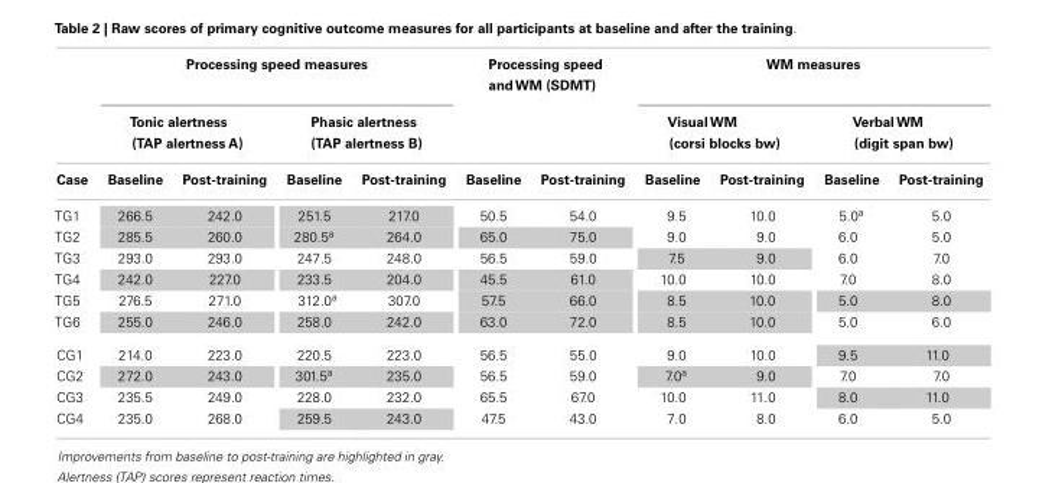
<table><thead><tr><td rowspan="3">Case</td><td colspan="4">Processing speed measures</td><td colspan="2">Processing speed and WM (SDMT)</td><td colspan="4">WM measures</td></tr><tr><td colspan="2">Tonic alertness (TAP alertness A)</td><td colspan="2">Phasic alertness (TAP alertness B)</td><td rowspan="2">Baseline</td><td rowspan="2">Post-training</td><td colspan="2">Visual WM (corsi blocks bw)</td><td colspan="2">Verbal WM (digit span bw)</td></tr><tr><td>Baseline</td><td>Post-training</td><td>Baseline</td><td>Post-training</td><td>Baseline</td><td>Post-training</td><td>Baseline</td><td>Post-training</td></tr></thead><tbody><tr><td>TG1</td><td>266.5</td><td>242.0</td><td>251.5</td><td>217.0</td><td>50.5</td><td>54.0</td><td>9.5</td><td>10.0</td><td>5.0<sup>a</sup></td><td>5.0</td></tr><tr><td>TG2</td><td>285.5</td><td>260.0</td><td>280.5<sup>a</sup></td><td>264.0</td><td>65.0</td><td>75.0</td><td>9.0</td><td>9.0</td><td>6.0</td><td>5.0</td></tr><tr><td>TG3</td><td>293.0</td><td>293.0</td><td>247.5</td><td>248.0</td><td>56.5</td><td>59.0</td><td>7.5</td><td>9.0</td><td>6.0</td><td>7.0</td></tr><tr><td>TG4</td><td>242.0</td><td>227.0</td><td>233.5</td><td>204.0</td><td>45.5</td><td>61.0</td><td>10.0</td><td>10.0</td><td>7.0</td><td>8.0</td></tr><tr><td>TG5</td><td>276.5</td><td>271.0</td><td>312.0<sup>a</sup></td><td>307.0</td><td>57.5</td><td>66.0</td><td>8.5</td><td>10.0</td><td>5.0</td><td>8.0</td></tr><tr><td>TG6</td><td>255.0</td><td>246.0</td><td>258.0</td><td>242.0</td><td>63.0</td><td>72.0</td><td>8.5</td><td>10.0</td><td>5.0</td><td>6.0</td></tr><tr><td>CG1</td><td>214.0</td><td>223.0</td><td>220.5</td><td>223.0</td><td>56.5</td><td>55.0</td><td>9.0</td><td>10.0</td><td>9.5</td><td>11.0</td></tr><tr><td>CG2</td><td>272.0</td><td>243.0</td><td>301.5<sup>a</sup></td><td>235.0</td><td>56.5</td><td>59.0</td><td>7.0<sup>a</sup></td><td>9.0</td><td>7.0</td><td>7.0</td></tr><tr><td>CG3</td><td>235.5</td><td>249.0</td><td>228.0</td><td>232.0</td><td>65.5</td><td>67.0</td><td>10.0</td><td>11.0</td><td>8.0</td><td>11.0</td></tr><tr><td>CG4</td><td>235.0</td><td>268.0</td><td>259.5</td><td>243.0</td><td>47.5</td><td>43.0</td><td>7.0</td><td>8.0</td><td>6.0</td><td>5.0</td></tr></tbody></table>